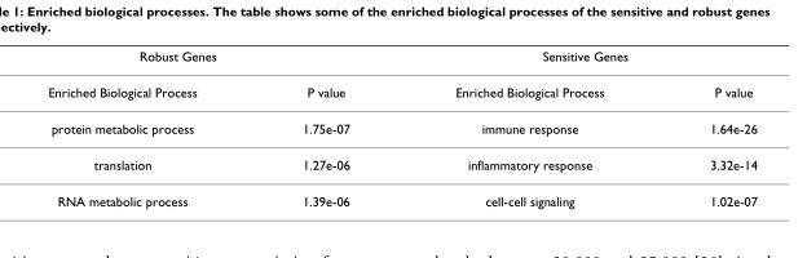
<table><thead><tr><td colspan="2">Robust Genes</td><td colspan="2">Sensitive Genes</td></tr><tr><td>Enriched Biological Process</td><td>P value</td><td>Enriched Biological Process</td><td>P value</td></tr></thead><tbody><tr><td>protein metabolic process</td><td>1.75e-07</td><td>immune response</td><td>1.64e-26</td></tr><tr><td>translation</td><td>1.27e-06</td><td>inflammatory response</td><td>3.32e-14</td></tr><tr><td>RNA metabolic process</td><td>1.39e-06</td><td>cell-cell signaling</td><td>1.02e-07</td></tr></tbody></table>